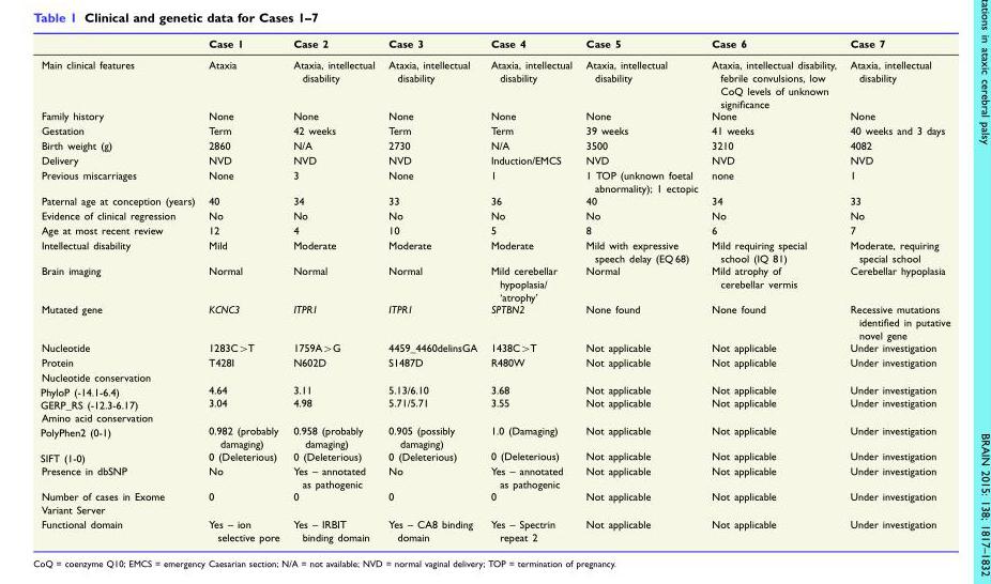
<table><thead><tr><td></td><td>Case 1</td><td>Case 2</td><td>Case 3</td><td>Case 4</td><td>Case 5</td><td>Case 6</td><td>Case 7</td></tr></thead><tbody><tr><td>Main clinical features</td><td>Ataxia</td><td>Ataxia, intellectual disability</td><td>Ataxia, intellectual disability</td><td>Ataxia, intellectual disability</td><td>Ataxia, intellectual disability</td><td>Ataxia, intellectual disability, febrile convulsions, low CoQ levels of unknown significance</td><td>Ataxia, intellectual disability</td></tr><tr><td>Family history</td><td>None</td><td>None</td><td>None</td><td>None</td><td>None</td><td>None</td><td>None</td></tr><tr><td>Gestation</td><td>Term</td><td>42 weeks</td><td>Term</td><td>Term</td><td>39 weeks</td><td>41 weeks</td><td>40 weeks and 3 days</td></tr><tr><td>Birth weight (g)</td><td>2860</td><td>N/A</td><td>2730</td><td>N/A</td><td>3500</td><td>3210</td><td>4082</td></tr><tr><td>Delivery</td><td>NVD</td><td>NVD</td><td>NVD</td><td>Induction/EMCS</td><td>NVD</td><td>NVD</td><td>NVD</td></tr><tr><td>Previous miscarriages</td><td>None</td><td>3</td><td>None</td><td>1</td><td>1 TOP (unknown foetal abnormality); 1 ectopic</td><td>none</td><td>1</td></tr><tr><td>Paternal age at conception (years)</td><td>40</td><td>34</td><td>33</td><td>36</td><td>40</td><td>34</td><td>33</td></tr><tr><td>Evidence of clinical regression</td><td>No</td><td>No</td><td>No</td><td>No</td><td>No</td><td>No</td><td>No</td></tr><tr><td>Age at most recent review</td><td>12</td><td>4</td><td>10</td><td>5</td><td>8</td><td>6</td><td>7</td></tr><tr><td>Intellectual disability</td><td>Mild</td><td>Moderate</td><td>Moderate</td><td>Moderate</td><td>Mild with expressive speech delay (EQ 68)</td><td>Mild requiring special school (IQ 81)</td><td>Moderate, requiring special school</td></tr><tr><td>Brain imaging</td><td>Normal</td><td>Normal</td><td>Normal</td><td>Mild cerebellar hypoplasia/ ‘atrophy’</td><td>Normal</td><td>Mild atrophy of cerebellar vermis</td><td>Cerebellar hypoplasia</td></tr><tr><td>Mutated gene</td><td>KCNC3</td><td>ITPR1</td><td>ITPR1</td><td>SPTBN2</td><td>None found</td><td>None found</td><td>Recessive mutations identified in putative novel gene</td></tr><tr><td>Nucleotide</td><td>1283C&gt;T</td><td>1759A&gt;G</td><td>4459_4460delinsGA</td><td>1438C&gt;T</td><td>Not applicable</td><td>Not applicable</td><td>Under investigation</td></tr><tr><td>Protein</td><td>T428I</td><td>N602D</td><td>S1487D</td><td>R480W</td><td>Not applicable</td><td>Not applicable</td><td>Under investigation</td></tr><tr><td>Nucleotide conservation PhyloP (-14.1-6.4) GERP_RS (-12.3-6.17)</td><td>4.64 3.04</td><td>3.11 4.98</td><td>5.13/6.10 5.71/5.71</td><td>3.68 3.55</td><td>Not applicable Not applicable</td><td>Not applicable Not applicable</td><td>Under investigation Under investigation</td></tr><tr><td>Amino acid conservation PolyPhen2 (0-1) SIFT (1-0)</td><td>0.982 (probably damaging) 0 (Deleterious)</td><td>0.958 (probably damaging) 0 (Deleterious)</td><td>0.905 (possibly damaging) 0 (Deleterious)</td><td>1.0 (Damaging) 0 (Deleterious)</td><td>Not applicable Not applicable</td><td>Not applicable Not applicable</td><td>Under investigation Under investigation</td></tr><tr><td>Presence in dbSNP</td><td>No</td><td>Yes – annotated as pathogenic</td><td>No</td><td>Yes – annotated as pathogenic</td><td>Not applicable</td><td>Not applicable</td><td>Under investigation</td></tr><tr><td>Number of cases in Exome Variant Server</td><td>0</td><td>0</td><td>0</td><td>0</td><td>Not applicable</td><td>Not applicable</td><td>Under investigation</td></tr><tr><td>Functional domain</td><td>Yes – ion selective pore</td><td>Yes – IRBIT binding domain</td><td>Yes – CA8 binding domain</td><td>Yes – Spectrin repeat 2</td><td>Not applicable</td><td>Not applicable</td><td>Under investigation</td></tr></tbody></table>